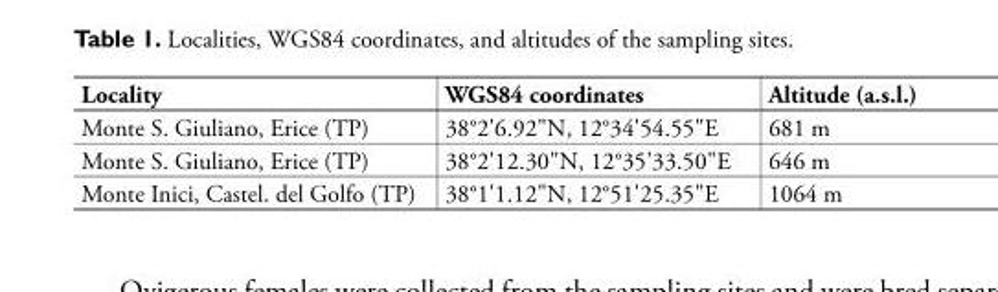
<table><thead><tr><td>Locality</td><td>WGS84 coordinates</td><td>Altitude (a.s.l.)</td></tr></thead><tbody><tr><td>Monte S. Giuliano, Erice (TP)</td><td>38°2&#x27;6.92&quot;N, 12°34&#x27;54.55&quot;E</td><td>681 m</td></tr><tr><td>Monte S. Giuliano, Erice (TP)</td><td>38°2&#x27;12.30&quot;N, 12°35&#x27;33.50&quot;E</td><td>646 m</td></tr><tr><td>Monte Inici, Castel. del Golfo (TP)</td><td>38°1&#x27;1.12&quot;N, 12°51&#x27;25.35&quot;E</td><td>1064 m</td></tr></tbody></table>